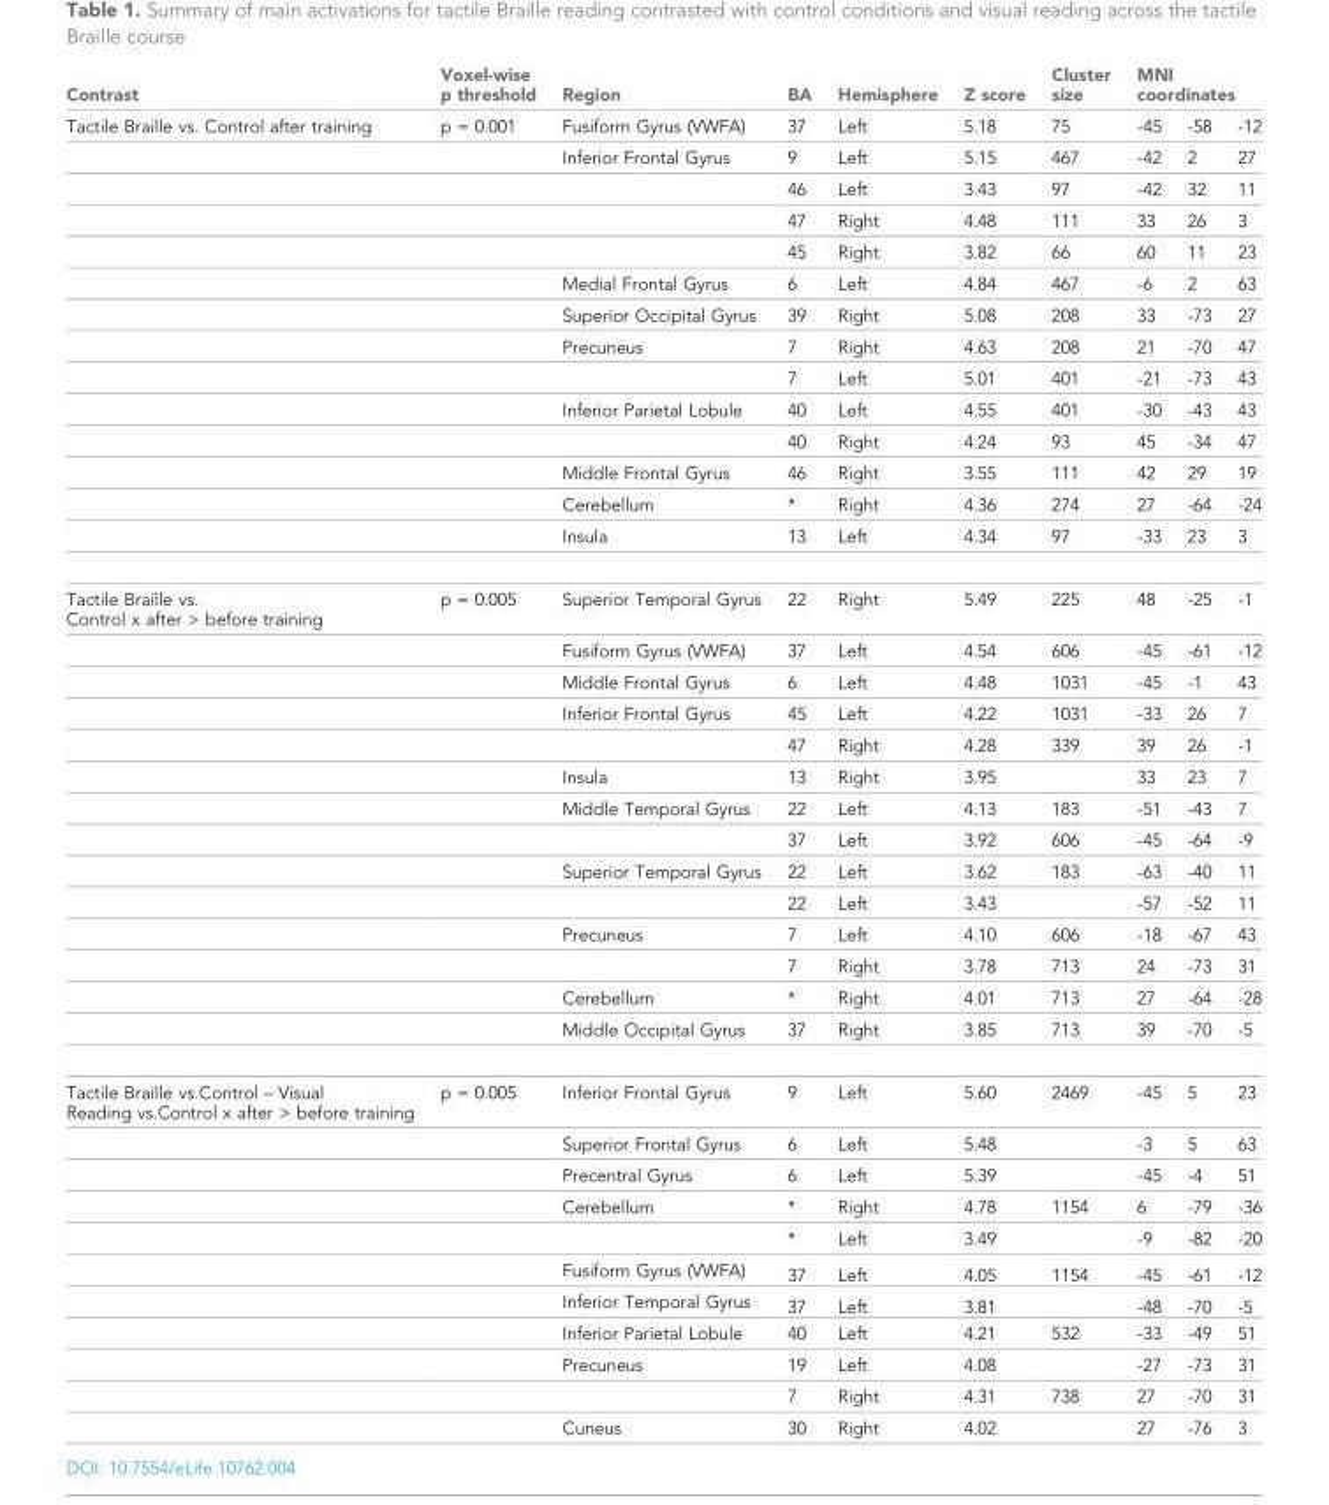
<table><thead><tr><td rowspan="2">Contrast Tactile Braille vs. Control after training</td><td rowspan="2">Voxel-wise p threshold p = 0.001</td><td rowspan="2">Region Fusiform Gyrus (VWFA)</td><td rowspan="2">BA 37</td><td rowspan="2">Hemisphere Left</td><td rowspan="2">Z score 5.18</td><td rowspan="2">Cluster size 75</td><td colspan="3">MNI coordinates</td></tr><tr><td>-45</td><td>-58</td><td>-12</td></tr></thead><tbody><tr><td></td><td></td><td>Inferior Frontal Gyrus</td><td>9</td><td>Left</td><td>5.15</td><td>467</td><td>-42</td><td>2</td><td>27</td></tr><tr><td></td><td></td><td></td><td>46</td><td>Left</td><td>3.43</td><td>97</td><td>-42</td><td>32</td><td>11</td></tr><tr><td></td><td></td><td></td><td>47</td><td>Right</td><td>4.48</td><td>111</td><td>33</td><td>26</td><td>3</td></tr><tr><td></td><td></td><td></td><td>45</td><td>Right</td><td>3.82</td><td>66</td><td>60</td><td>11</td><td>23</td></tr><tr><td></td><td></td><td>Medial Frontal Gyrus</td><td>6</td><td>Left</td><td>4.84</td><td>467</td><td>-6</td><td>2</td><td>63</td></tr><tr><td></td><td></td><td>Superior Occipital Gyrus</td><td>39</td><td>Right</td><td>5.08</td><td>208</td><td>33</td><td>-73</td><td>27</td></tr><tr><td></td><td></td><td>Precuneus</td><td>7</td><td>Right</td><td>4.63</td><td>208</td><td>21</td><td>-70</td><td>47</td></tr><tr><td></td><td></td><td></td><td>7</td><td>Left</td><td>5.01</td><td>401</td><td>-21</td><td>-73</td><td>43</td></tr><tr><td></td><td></td><td>Inferior Parietal Lobule</td><td>40</td><td>Left</td><td>4.55</td><td>401</td><td>-30</td><td>-43</td><td>43</td></tr><tr><td></td><td></td><td></td><td>40</td><td>Right</td><td>4.24</td><td>93</td><td>45</td><td>-34</td><td>47</td></tr><tr><td></td><td></td><td>Middle Frontal Gyrus</td><td>46</td><td>Right</td><td>3.55</td><td>111</td><td>42</td><td>29</td><td>19</td></tr><tr><td></td><td></td><td>Cerebellum</td><td>*</td><td>Right</td><td>4.36</td><td>274</td><td>27</td><td>-64</td><td>-24</td></tr><tr><td></td><td></td><td>Insula</td><td>13</td><td>Left</td><td>4.34</td><td>97</td><td>-33</td><td>23</td><td>3</td></tr><tr><td rowspan="14">Tactile Braille vs. Control x after &gt; before training</td><td>p = 0.005</td><td>Superior Temporal Gyrus</td><td>22</td><td>Right</td><td>5.49</td><td>225</td><td>48</td><td>-25</td><td>-1</td></tr><tr><td></td><td>Fusiform Gyrus (VWFA)</td><td>37</td><td>Left</td><td>4.54</td><td>606</td><td>-45</td><td>-61</td><td>-12</td></tr><tr><td></td><td>Middle Frontal Gyrus</td><td>6</td><td>Left</td><td>4.48</td><td>1031</td><td>-45</td><td>-1</td><td>43</td></tr><tr><td></td><td>Inferior Frontal Gyrus</td><td>45</td><td>Left</td><td>4.22</td><td>1031</td><td>-33</td><td>26</td><td>7</td></tr><tr><td></td><td></td><td>47</td><td>Right</td><td>4.28</td><td>339</td><td>39</td><td>26</td><td>-1</td></tr><tr><td></td><td>Insula</td><td>13</td><td>Right</td><td>3.95</td><td></td><td>33</td><td>23</td><td>7</td></tr><tr><td></td><td>Middle Temporal Gyrus</td><td>22</td><td>Left</td><td>4.13</td><td>183</td><td>-51</td><td>-43</td><td>7</td></tr><tr><td></td><td></td><td>37</td><td>Left</td><td>3.92</td><td>606</td><td>-45</td><td>-64</td><td>-9</td></tr><tr><td></td><td>Superior Temporal Gyrus</td><td>22</td><td>Left</td><td>3.62</td><td>183</td><td>-63</td><td>-40</td><td>11</td></tr><tr><td></td><td></td><td>22</td><td>Left</td><td>3.43</td><td></td><td>-57</td><td>-52</td><td>11</td></tr><tr><td></td><td>Precuneus</td><td>7</td><td>Left</td><td>4.10</td><td>606</td><td>-18</td><td>-67</td><td>43</td></tr><tr><td></td><td></td><td>7</td><td>Right</td><td>3.78</td><td>713</td><td>24</td><td>-73</td><td>31</td></tr><tr><td></td><td>Cerebellum</td><td>*</td><td>Right</td><td>4.01</td><td>713</td><td>27</td><td>-64</td><td>-28</td></tr><tr><td></td><td>Middle Occipital Gyrus</td><td>37</td><td>Right</td><td>3.85</td><td>713</td><td>39</td><td>-70</td><td>-5</td></tr><tr><td rowspan="11">Tactile Braille vs.Control – Visual Reading vs.Control x after &gt; before training</td><td>p = 0.005</td><td>Inferior Frontal Gyrus</td><td>9</td><td>Left</td><td>5.60</td><td>2469</td><td>-45</td><td>5</td><td>23</td></tr><tr><td></td><td>Superior Frontal Gyrus</td><td>6</td><td>Left</td><td>5.48</td><td></td><td>-3</td><td>5</td><td>63</td></tr><tr><td></td><td>Precentral Gyrus</td><td>6</td><td>Left</td><td>5.39</td><td></td><td>-45</td><td>-4</td><td>51</td></tr><tr><td></td><td>Cerebellum</td><td>*</td><td>Right</td><td>4.78</td><td>1154</td><td>6</td><td>-79</td><td>-36</td></tr><tr><td></td><td></td><td>*</td><td>Left</td><td>3.49</td><td></td><td>-9</td><td>-82</td><td>-20</td></tr><tr><td></td><td>Fusiform Gyrus (VWFA)</td><td>37</td><td>Left</td><td>4.05</td><td>1154</td><td>-45</td><td>-61</td><td>-12</td></tr><tr><td></td><td>Inferior Temporal Gyrus</td><td>37</td><td>Left</td><td>3.81</td><td></td><td>-48</td><td>-70</td><td>-5</td></tr><tr><td></td><td>Inferior Parietal Lobule</td><td>40</td><td>Left</td><td>4.21</td><td>532</td><td>-33</td><td>-49</td><td>51</td></tr><tr><td></td><td>Precuneus</td><td>19</td><td>Left</td><td>4.08</td><td></td><td>-27</td><td>-73</td><td>31</td></tr><tr><td></td><td></td><td>7</td><td>Right</td><td>4.31</td><td>738</td><td>27</td><td>-70</td><td>31</td></tr><tr><td></td><td>Cuneus</td><td>30</td><td>Right</td><td>4.02</td><td></td><td>27</td><td>-76</td><td>3</td></tr></tbody></table>